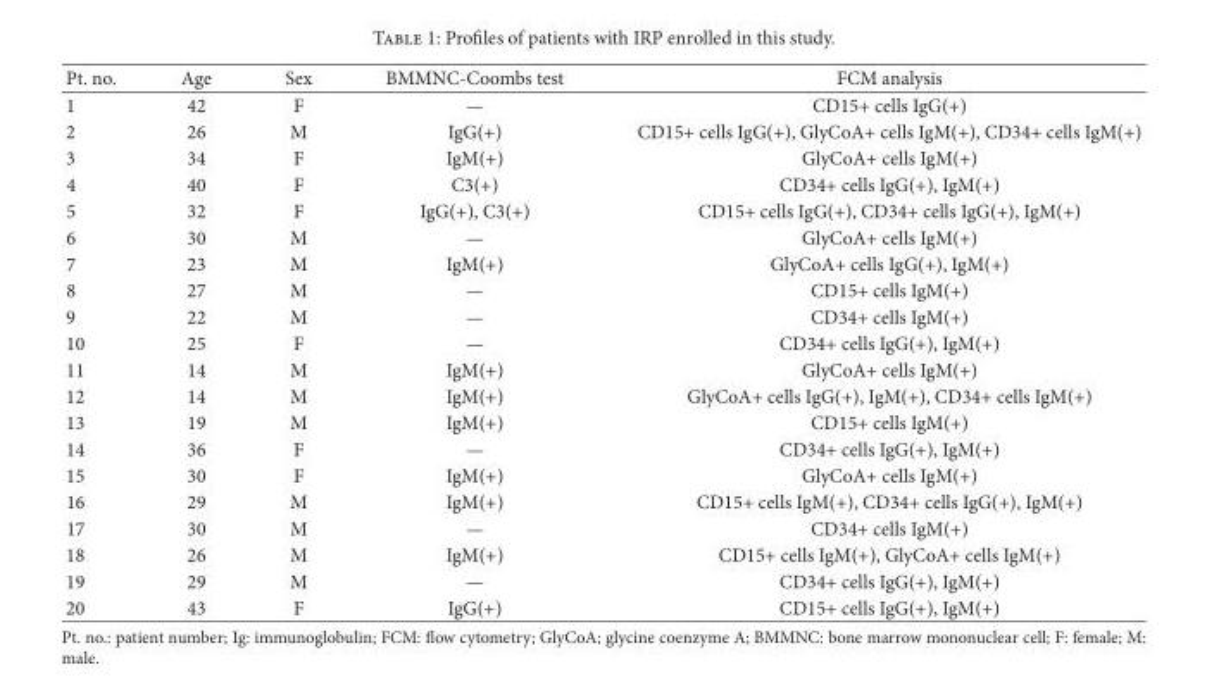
<table><thead><tr><td>Pt. no.</td><td>Age</td><td>Sex</td><td>BMMNC-Coombs test</td><td>FCM analysis</td></tr></thead><tbody><tr><td>1</td><td>42</td><td>F</td><td>—</td><td>CD15+ cells IgG(+)</td></tr><tr><td>2</td><td>26</td><td>M</td><td>IgG(+)</td><td>CD15+ cells IgG(+), GlyCoA+ cells IgM(+), CD34+ cells IgM(+)</td></tr><tr><td>3</td><td>34</td><td>F</td><td>IgM(+)</td><td>GlyCoA+ cells IgM(+)</td></tr><tr><td>4</td><td>40</td><td>F</td><td>C3(+)</td><td>CD34+ cells IgG(+), IgM(+)</td></tr><tr><td>5</td><td>32</td><td>F</td><td>IgG(+), C3(+)</td><td>CD15+ cells IgG(+), CD34+ cells IgG(+), IgM(+)</td></tr><tr><td>6</td><td>30</td><td>M</td><td>—</td><td>GlyCoA+ cells IgM(+)</td></tr><tr><td>7</td><td>23</td><td>M</td><td>IgM(+)</td><td>GlyCoA+ cells IgG(+), IgM(+)</td></tr><tr><td>8</td><td>27</td><td>M</td><td>—</td><td>CD15+ cells IgM(+)</td></tr><tr><td>9</td><td>22</td><td>M</td><td>—</td><td>CD34+ cells IgM(+)</td></tr><tr><td>10</td><td>25</td><td>F</td><td>—</td><td>CD34+ cells IgG(+), IgM(+)</td></tr><tr><td>11</td><td>14</td><td>M</td><td>IgM(+)</td><td>GlyCoA+ cells IgM(+)</td></tr><tr><td>12</td><td>14</td><td>M</td><td>IgM(+)</td><td>GlyCoA+ cells IgG(+), IgM(+), CD34+ cells IgM(+)</td></tr><tr><td>13</td><td>19</td><td>M</td><td>IgM(+)</td><td>CD15+ cells IgM(+)</td></tr><tr><td>14</td><td>36</td><td>F</td><td>—</td><td>CD34+ cells IgG(+), IgM(+)</td></tr><tr><td>15</td><td>30</td><td>F</td><td>IgM(+)</td><td>GlyCoA+ cells IgM(+)</td></tr><tr><td>16</td><td>29</td><td>M</td><td>IgM(+)</td><td>CD15+ cells IgM(+), CD34+ cells IgG(+), IgM(+)</td></tr><tr><td>17</td><td>30</td><td>M</td><td>—</td><td>CD34+ cells IgM(+)</td></tr><tr><td>18</td><td>26</td><td>M</td><td>IgM(+)</td><td>CD15+ cells IgM(+), GlyCoA+ cells IgM(+)</td></tr><tr><td>19</td><td>29</td><td>M</td><td>—</td><td>CD34+ cells IgG(+), IgM(+)</td></tr><tr><td>20</td><td>43</td><td>F</td><td>IgG(+)</td><td>CD15+ cells IgG(+), IgM(+)</td></tr></tbody></table>